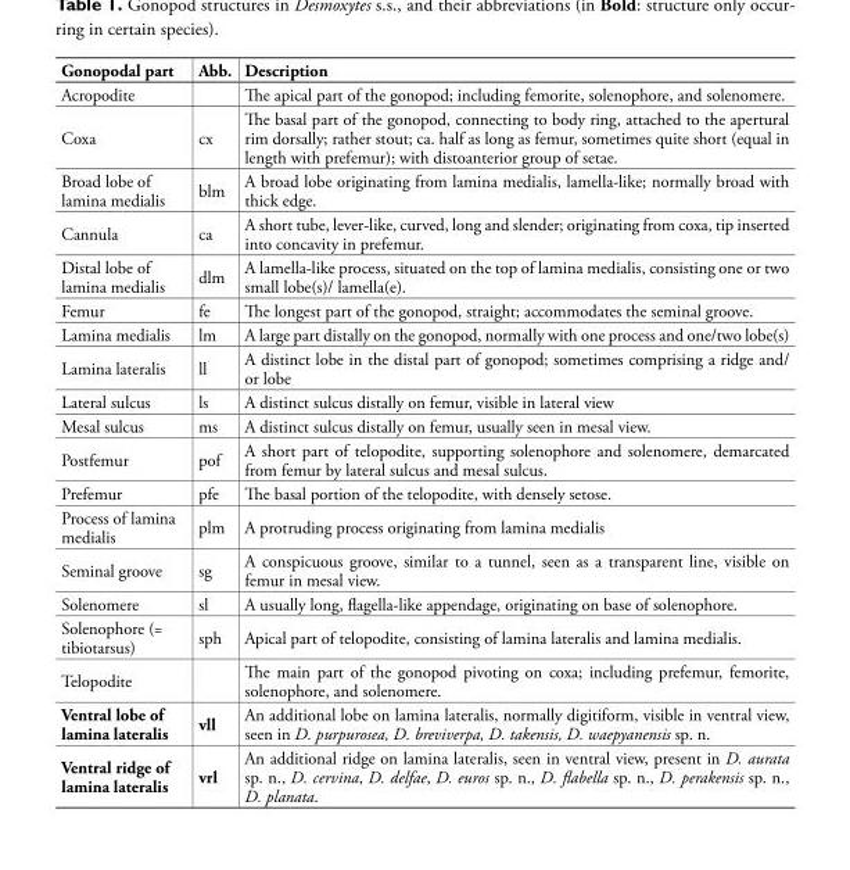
<table><thead><tr><td>Gonopodal part</td><td>Abb.</td><td>Description</td></tr></thead><tbody><tr><td>Acropodite</td><td></td><td>The apical part of the gonopod; including femorite, solenophore, and solenomere.</td></tr><tr><td>Coxa</td><td>cx</td><td>The basal part of the gonopod, connecting to body ring, attached to the apertural rim dorsally; rather stout; ca. half as long as femur, sometimes quite short (equal in length with prefemur); with distoanterior group of setae.</td></tr><tr><td>Broad lobe of lamina medialis</td><td>blm</td><td>A broad lobe originating from lamina medialis, lamella-like; normally broad with thick edge.</td></tr><tr><td>Cannula</td><td>ca</td><td>A short tube, lever-like, curved, long and slender; originating from coxa, tip inserted into concavity in prefemur.</td></tr><tr><td>Distal lobe of lamina medialis</td><td>dlm</td><td>A lamella-like process, situated on the top of lamina medialis, consisting one or two small lobe(s)/ lamella(e).</td></tr><tr><td>Femur</td><td>fe</td><td>The longest part of the gonopod, straight; accommodates the seminal groove.</td></tr><tr><td>Lamina medialis</td><td>lm</td><td>A large part distally on the gonopod, normally with one process and one/two lobe(s)</td></tr><tr><td>Lamina lateralis</td><td>ll</td><td>A distinct lobe in the distal part of gonopod; sometimes comprising a ridge and/ or lobe</td></tr><tr><td>Lateral sulcus</td><td>ls</td><td>A distinct sulcus distally on femur, visible in lateral view</td></tr><tr><td>Mesal sulcus</td><td>ms</td><td>A distinct sulcus distally on femur, usually seen in mesal view.</td></tr><tr><td>Postfemur</td><td>pof</td><td>A short part of telopodite, supporting solenophore and solenomere, demarcated from femur by lateral sulcus and mesal sulcus.</td></tr><tr><td>Prefemur</td><td>pfe</td><td>The basal portion of the telopodite, with densely setose.</td></tr><tr><td>Process of lamina medialis</td><td>plm</td><td>A protruding process originating from lamina medialis</td></tr><tr><td>Seminal groove</td><td>sg</td><td>A conspicuous groove, similar to a tunnel, seen as a transparent line, visible on femur in mesal view.</td></tr><tr><td>Solenomere</td><td>sl</td><td>A usually long, flagella-like appendage, originating on base of solenophore.</td></tr><tr><td>Solenophore (= tibiotarsus)</td><td>sph</td><td>Apical part of telopodite, consisting of lamina lateralis and lamina medialis.</td></tr><tr><td>Telopodite</td><td></td><td>The main part of the gonopod pivoting on coxa; including prefemur, femorite, solenophore, and solenomere.</td></tr><tr><td>Ventral lobe of lamina lateralis</td><td>vll</td><td>An additional lobe on lamina lateralis, normally digitiform, visible in ventral view, seen in D. purpurosea, D. breviverpa, D. takensis, D. waepyanensis sp. n.</td></tr><tr><td>Ventral ridge of lamina lateralis</td><td>vrl</td><td>An additional ridge on lamina lateralis, seen in ventral view, present in D. aurata sp. n., D. cervina, D. delfae, D. euros sp. n., D. flabella sp. n., D. perakensis sp. n., D. planata.</td></tr></tbody></table>